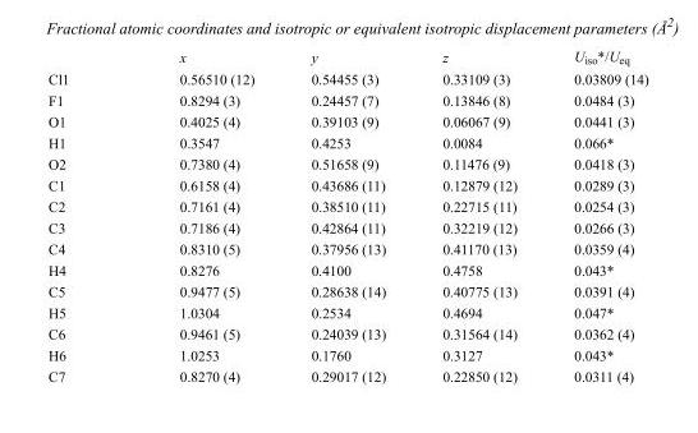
<table><thead><tr><td></td><td>x</td><td>y</td><td>z</td><td>U<sub>iso</sub>*/U<sub>eq</sub></td></tr></thead><tbody><tr><td>Cl1</td><td>0.56510 (12)</td><td>0.54455 (3)</td><td>0.33109 (3)</td><td>0.03809 (14)</td></tr><tr><td>F1</td><td>0.8294 (3)</td><td>0.24457 (7)</td><td>0.13846 (8)</td><td>0.0484 (3)</td></tr><tr><td>O1</td><td>0.4025 (4)</td><td>0.39103 (9)</td><td>0.06067 (9)</td><td>0.0441 (3)</td></tr><tr><td>H1</td><td>0.3547</td><td>0.4253</td><td>0.0084</td><td>0.066*</td></tr><tr><td>O2</td><td>0.7380 (4)</td><td>0.51658 (9)</td><td>0.11476 (9)</td><td>0.0418 (3)</td></tr><tr><td>C1</td><td>0.6158 (4)</td><td>0.43686 (11)</td><td>0.12879 (12)</td><td>0.0289 (3)</td></tr><tr><td>C2</td><td>0.7161 (4)</td><td>0.38510 (11)</td><td>0.22715 (11)</td><td>0.0254 (3)</td></tr><tr><td>C3</td><td>0.7186 (4)</td><td>0.42864 (11)</td><td>0.32219 (12)</td><td>0.0266 (3)</td></tr><tr><td>C4</td><td>0.8310 (5)</td><td>0.37956 (13)</td><td>0.41170 (13)</td><td>0.0359 (4)</td></tr><tr><td>H4</td><td>0.8276</td><td>0.4100</td><td>0.4758</td><td>0.043*</td></tr><tr><td>C5</td><td>0.9477 (5)</td><td>0.28638 (14)</td><td>0.40775 (13)</td><td>0.0391 (4)</td></tr><tr><td>H5</td><td>1.0304</td><td>0.2534</td><td>0.4694</td><td>0.047*</td></tr><tr><td>C6</td><td>0.9461 (5)</td><td>0.24039 (13)</td><td>0.31564 (14)</td><td>0.0362 (4)</td></tr><tr><td>H6</td><td>1.0253</td><td>0.1760</td><td>0.3127</td><td>0.043*</td></tr><tr><td>C7</td><td>0.8270 (4)</td><td>0.29017 (12)</td><td>0.22850 (12)</td><td>0.0311 (4)</td></tr></tbody></table>